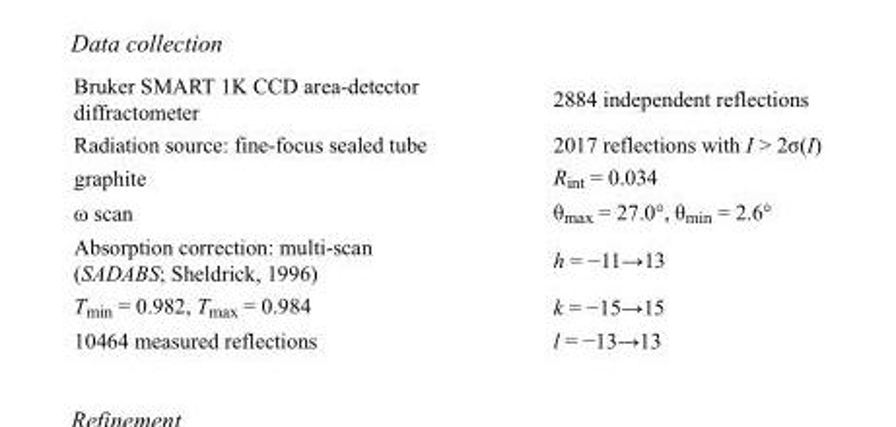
<table><tbody><tr><td>Bruker SMART 1K CCD area-detector diffractometer</td><td>2884 independent reflections</td></tr><tr><td>Radiation source: fine-focus sealed tube</td><td>2017 reflections with I &gt; 2σ(I)</td></tr><tr><td>graphite</td><td>R<sub>int</sub> = 0.034</td></tr><tr><td>ω scan</td><td>θ<sub>max</sub> = 27.0°, θ<sub>min</sub> = 2.6°</td></tr><tr><td>Absorption correction: multi-scan (SADABS; Sheldrick, 1996)</td><td>h = −11→13</td></tr><tr><td>T<sub>min</sub> = 0.982, T<sub>max</sub> = 0.984</td><td>k = −15→15</td></tr><tr><td>10464 measured reflections</td><td>l = −13→13</td></tr></tbody></table>